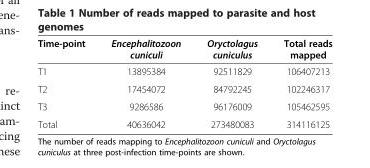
<table><thead><tr><td>Time-point</td><td>Encephalitozoon cuniculi</td><td>Oryctolagus cuniculus</td><td>Total reads mapped</td></tr></thead><tbody><tr><td>T1</td><td>13895384</td><td>92511829</td><td>106407213</td></tr><tr><td>T2</td><td>17454072</td><td>84792245</td><td>102246317</td></tr><tr><td>T3</td><td>9286586</td><td>96176009</td><td>105462595</td></tr><tr><td>Total</td><td>40636042</td><td>273480083</td><td>314116125</td></tr></tbody></table>